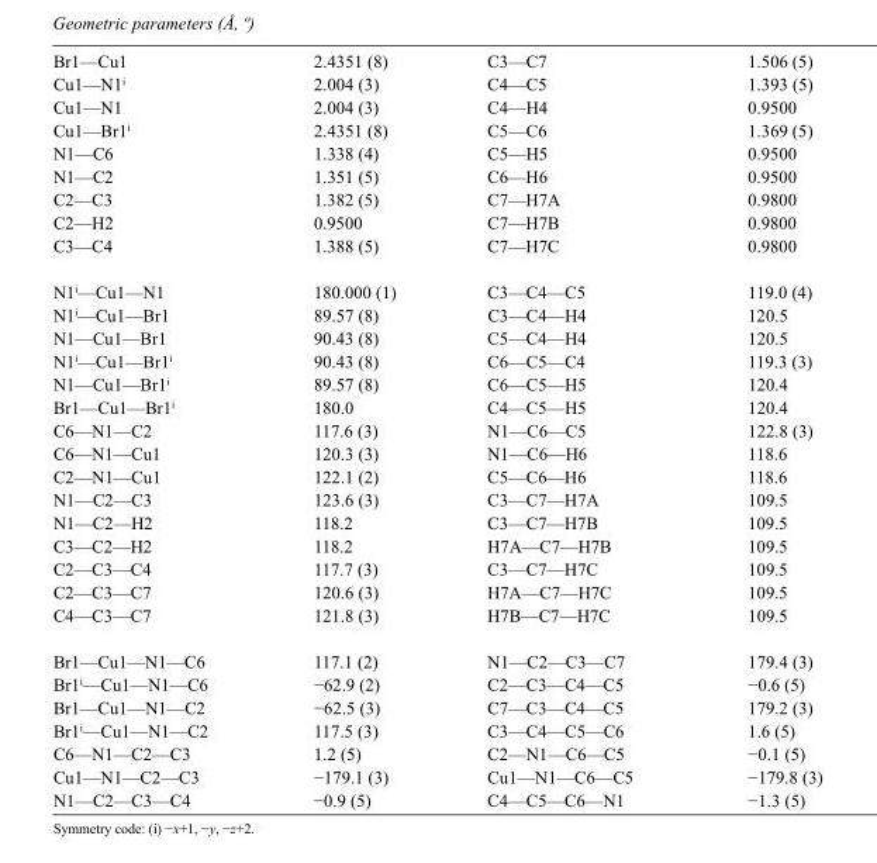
<table><tbody><tr><td>Br1—Cu1</td><td>2.4351 (8)</td><td>C3—C7</td><td>1.506 (5)</td></tr><tr><td>Cu1—N1<sup>i</sup></td><td>2.004 (3)</td><td>C4—C5</td><td>1.393 (5)</td></tr><tr><td>Cu1—N1</td><td>2.004 (3)</td><td>C4—H4</td><td>0.9500</td></tr><tr><td>Cu1—Br1<sup>i</sup></td><td>2.4351 (8)</td><td>C5—C6</td><td>1.369 (5)</td></tr><tr><td>N1—C6</td><td>1.338 (4)</td><td>C5—H5</td><td>0.9500</td></tr><tr><td>N1—C2</td><td>1.351 (5)</td><td>C6—H6</td><td>0.9500</td></tr><tr><td>C2—C3</td><td>1.382 (5)</td><td>C7—H7A</td><td>0.9800</td></tr><tr><td>C2—H2</td><td>0.9500</td><td>C7—H7B</td><td>0.9800</td></tr><tr><td>C3—C4</td><td>1.388 (5)</td><td>C7—H7C</td><td>0.9800</td></tr><tr><td>N1<sup>i</sup>—Cu1—N1</td><td>180.000 (1)</td><td>C3—C4—C5</td><td>119.0 (4)</td></tr><tr><td>N1<sup>i</sup>—Cu1—Br1</td><td>89.57 (8)</td><td>C3—C4—H4</td><td>120.5</td></tr><tr><td>N1—Cu1—Br1</td><td>90.43 (8)</td><td>C5—C4—H4</td><td>120.5</td></tr><tr><td>N1<sup>i</sup>—Cu1—Br1<sup>i</sup></td><td>90.43 (8)</td><td>C6—C5—C4</td><td>119.3 (3)</td></tr><tr><td>N1—Cu1—Br1<sup>i</sup></td><td>89.57 (8)</td><td>C6—C5—H5</td><td>120.4</td></tr><tr><td>Br1—Cu1—Br1<sup>i</sup></td><td>180.0</td><td>C4—C5—H5</td><td>120.4</td></tr><tr><td>C6—N1—C2</td><td>117.6 (3)</td><td>N1—C6—C5</td><td>122.8 (3)</td></tr><tr><td>C6—N1—Cu1</td><td>120.3 (3)</td><td>N1—C6—H6</td><td>118.6</td></tr><tr><td>C2—N1—Cu1</td><td>122.1 (2)</td><td>C5—C6—H6</td><td>118.6</td></tr><tr><td>N1—C2—C3</td><td>123.6 (3)</td><td>C3—C7—H7A</td><td>109.5</td></tr><tr><td>N1—C2—H2</td><td>118.2</td><td>C3—C7—H7B</td><td>109.5</td></tr><tr><td>C3—C2—H2</td><td>118.2</td><td>H7A—C7—H7B</td><td>109.5</td></tr><tr><td>C2—C3—C4</td><td>117.7 (3)</td><td>C3—C7—H7C</td><td>109.5</td></tr><tr><td>C2—C3—C7</td><td>120.6 (3)</td><td>H7A—C7—H7C</td><td>109.5</td></tr><tr><td>C4—C3—C7</td><td>121.8 (3)</td><td>H7B—C7—H7C</td><td>109.5</td></tr><tr><td>Br1—Cu1—N1—C6</td><td>117.1 (2)</td><td>N1—C2—C3—C7</td><td>179.4 (3)</td></tr><tr><td>Br1<sup>i</sup>—Cu1—N1—C6</td><td>−62.9 (2)</td><td>C2—C3—C4—C5</td><td>−0.6 (5)</td></tr><tr><td>Br1—Cu1—N1—C2</td><td>−62.5 (3)</td><td>C7—C3—C4—C5</td><td>179.2 (3)</td></tr><tr><td>Br1<sup>i</sup>—Cu1—N1—C2</td><td>117.5 (3)</td><td>C3—C4—C5—C6</td><td>1.6 (5)</td></tr><tr><td>C6—N1—C2—C3</td><td>1.2 (5)</td><td>C2—N1—C6—C5</td><td>−0.1 (5)</td></tr><tr><td>Cu1—N1—C2—C3</td><td>−179.1 (3)</td><td>Cu1—N1—C6—C5</td><td>−179.8 (3)</td></tr><tr><td>N1—C2—C3—C4</td><td>−0.9 (5)</td><td>C4—C5—C6—N1</td><td>−1.3 (5)</td></tr></tbody></table>